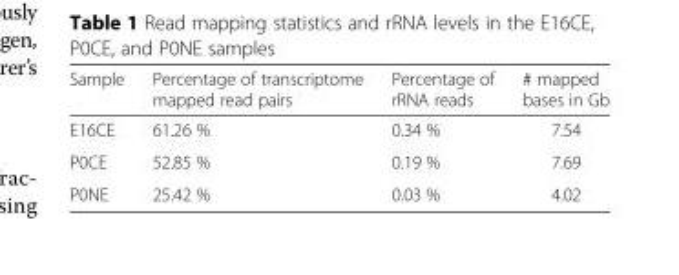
<table><thead><tr><td>Sample</td><td>Percentage of transcriptome mapped read pairs</td><td>Percentage of rRNA reads</td><td># mapped bases in Gb</td></tr></thead><tbody><tr><td>E16CE</td><td>61.26 %</td><td>0.34 %</td><td>7.54</td></tr><tr><td>P0CE</td><td>52.85 %</td><td>0.19 %</td><td>7.69</td></tr><tr><td>P0NE</td><td>25.42 %</td><td>0.03 %</td><td>4.02</td></tr></tbody></table>